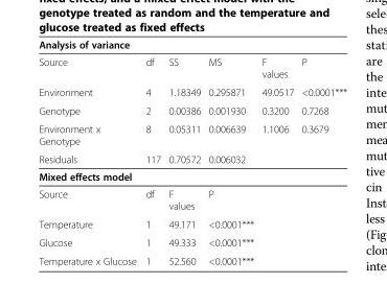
<table><thead><tr><td colspan="6">Analysis of variance</td></tr><tr><td>Source</td><td>df</td><td>SS</td><td>MS</td><td>F values</td><td>P</td></tr></thead><tbody><tr><td>Environment</td><td>4</td><td>1.18349</td><td>0.295871</td><td>49.0517</td><td>&lt;0.0001***</td></tr><tr><td>Genotype</td><td>2</td><td>0.00386</td><td>0.001930</td><td>0.3200</td><td>0.7268</td></tr><tr><td>Environment x Genotype</td><td>8</td><td>0.05311</td><td>0.006639</td><td>1.1006</td><td>0.3679</td></tr><tr><td>Residuals</td><td>117</td><td>0.70572</td><td>0.006032</td><td></td><td></td></tr><tr><td colspan="6">Mixed effects model</td></tr><tr><td>Source</td><td>df</td><td>F values</td><td>P</td><td></td><td></td></tr><tr><td>Temperature</td><td>1</td><td>49.171</td><td>&lt;0.0001***</td><td></td><td></td></tr><tr><td>Glucose</td><td>1</td><td>49.333</td><td>&lt;0.0001***</td><td></td><td></td></tr><tr><td>Temperature x Glucose</td><td>1</td><td>52.560</td><td>&lt;0.0001***</td><td></td><td></td></tr></tbody></table>